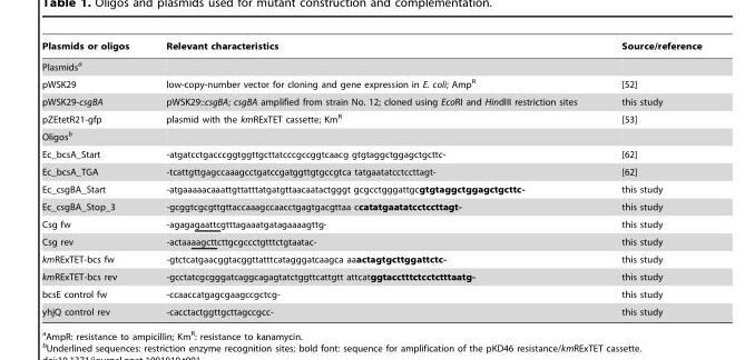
<table><thead><tr><td>Plasmids or oligos</td><td>Relevant characteristics</td><td>Source/reference</td></tr></thead><tbody><tr><td colspan="3">Plasmids<sup>a</sup></td></tr><tr><td>pWSK29</td><td>low-copy-number vector for cloning and gene expression in E. coli; Amp<sup>R</sup></td><td>[52]</td></tr><tr><td>pWSK29-csgBA</td><td>pWSK29::csgBA; csgBA amplified from strain No. 12; cloned using EcoRI and HindIII restriction sites</td><td>this study</td></tr><tr><td>pZEtetR21-gfp</td><td>plasmid with the kmRExTET cassette; Km<sup>R</sup></td><td>[53]</td></tr><tr><td colspan="3">Oligos<sup>b</sup></td></tr><tr><td>Ec_bcsA_Start</td><td>-atgatcctgacccggtggttgcttatcccgccggtcaacg gtgtaggctggagctgcttc-</td><td>[62]</td></tr><tr><td>Ec_bcsA_TGA</td><td>-tcattgttgagccaaagcctgatccgatggttgtgccgtca tatgaatatcctccttagt-</td><td>[62]</td></tr><tr><td>Ec_csgBA_Start</td><td>-atgaaaaacaaattgttatttatgatgttaacaatactgggt gcgcctgggattgcgtgtaggctggagctgcttc-</td><td>this study</td></tr><tr><td>Ec_csgBA_Stop_3</td><td>-gcggtcgcgttgttaccaaagccaacctgagtgacgttaa ccatatgaatatcctccttagt-</td><td>this study</td></tr><tr><td>Csg fw</td><td>-agagagaattcgtttagaaatgatagaaaagttg-</td><td>this study</td></tr><tr><td>Csg rev</td><td>-actaaaagcttcttgcgccctgtttctgtaatac-</td><td>this study</td></tr><tr><td>kmRExTET-bcs fw</td><td>-gtctcatgaacggtacggttatttcatagggatcaagca aaactagtgcttggattctc-</td><td>this study</td></tr><tr><td>kmRExTET-bcs rev</td><td>-gcctatcgcgggatcaggcagagtatctggttcattgtt attcatggtacctttctcctctttaatg-</td><td>this study</td></tr><tr><td>bcsE control fw</td><td>-ccaaccatgagcgaagccgctcg-</td><td>this study</td></tr><tr><td>yhjQ control rev</td><td>-cacctactggttgcttagccgcc-</td><td>this study</td></tr></tbody></table>